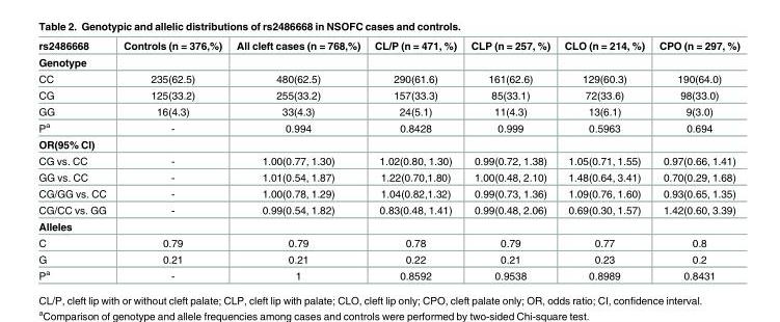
<table><thead><tr><td>rs2486668</td><td>Controls (n = 376,%)</td><td>All cleft cases (n = 768,%)</td><td>CL/P (n = 471, %)</td><td>CLP (n = 257, %)</td><td>CLO (n = 214, %)</td><td>CPO (n = 297, %)</td></tr></thead><tbody><tr><td colspan="7">Genotype</td></tr><tr><td>CC</td><td>235(62.5)</td><td>480(62.5)</td><td>290(61.6)</td><td>161(62.6)</td><td>129(60.3)</td><td>190(64.0)</td></tr><tr><td>CG</td><td>125(33.2)</td><td>255(33.2)</td><td>157(33.3)</td><td>85(33.1)</td><td>72(33.6)</td><td>98(33.0)</td></tr><tr><td>GG</td><td>16(4.3)</td><td>33(4.3)</td><td>24(5.1)</td><td>11(4.3)</td><td>13(6.1)</td><td>9(3.0)</td></tr><tr><td>P<sup>a</sup></td><td>-</td><td>0.994</td><td>0.8428</td><td>0.999</td><td>0.5963</td><td>0.694</td></tr><tr><td colspan="7">OR(95% CI)</td></tr><tr><td>CG vs. CC</td><td>-</td><td>1.00(0.77, 1.30)</td><td>1.02(0.80, 1.30)</td><td>0.99(0.72, 1.38)</td><td>1.05(0.71, 1.55)</td><td>0.97(0.66, 1.41)</td></tr><tr><td>GG vs. CC</td><td>-</td><td>1.01(0.54, 1.87)</td><td>1.22(0.70,1.80)</td><td>1.00(0.48, 2.10)</td><td>1.48(0.64, 3.41)</td><td>0.70(0.29, 1.68)</td></tr><tr><td>CG/GG vs. CC</td><td>-</td><td>1.00(0.78, 1.29)</td><td>1.04(0.82,1.32)</td><td>0.99(0.73, 1.36)</td><td>1.09(0.76, 1.60)</td><td>0.93(0.65, 1.35)</td></tr><tr><td>CG/CC vs. GG</td><td>-</td><td>0.99(0.54, 1.82)</td><td>0.83(0.48, 1.41)</td><td>0.99(0.48, 2.06)</td><td>0.69(0.30, 1.57)</td><td>1.42(0.60, 3.39)</td></tr><tr><td colspan="7">Alleles</td></tr><tr><td>C</td><td>0.79</td><td>0.79</td><td>0.78</td><td>0.79</td><td>0.77</td><td>0.8</td></tr><tr><td>G</td><td>0.21</td><td>0.21</td><td>0.22</td><td>0.21</td><td>0.23</td><td>0.2</td></tr><tr><td>P<sup>a</sup></td><td>-</td><td>1</td><td>0.8592</td><td>0.9538</td><td>0.8989</td><td>0.8431</td></tr></tbody></table>